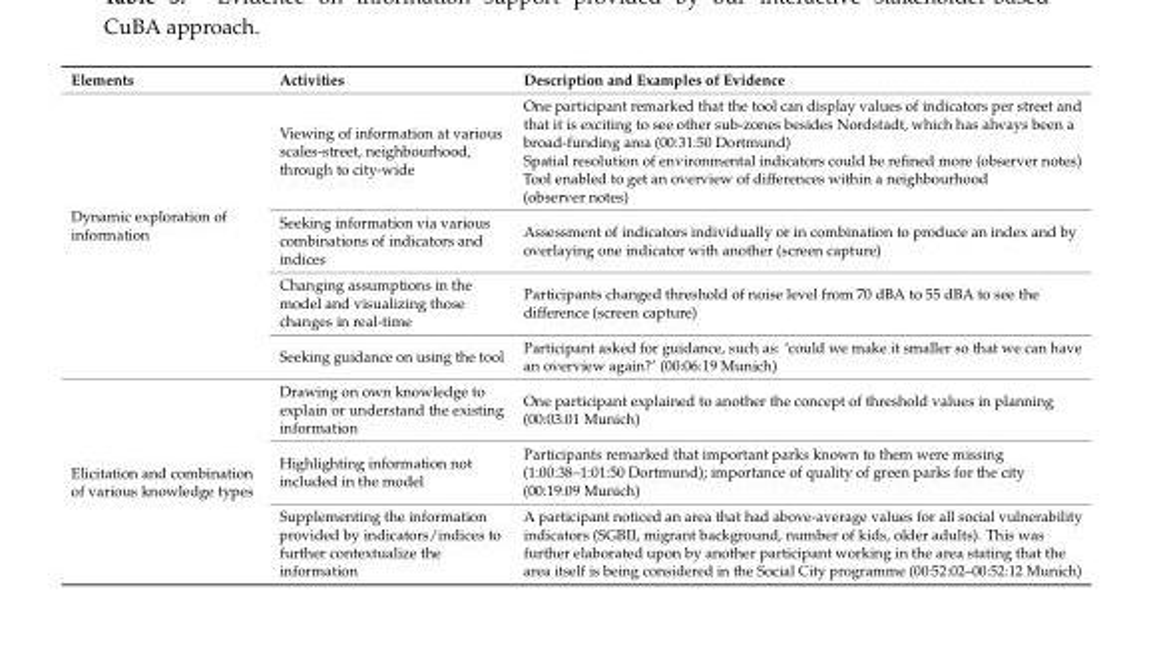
<table><thead><tr><td>Elements</td><td>Activities</td><td>Description and Examples of Evidence</td></tr></thead><tbody><tr><td rowspan="4">Dynamic exploration of information</td><td>Viewing of information at various scales-street, neighbourhood, through to city-wide</td><td>One participant remarked that the tool can display values of indicators per street and that it is exciting to see other sub-zones besides Nordstadt, which has always been a broad-funding area (00:31:50 Dortmund) Spatial resolution of environmental indicators could be refined more (observer notes) Tool enabled to get an overview of differences within a neighbourhood (observer notes)</td></tr><tr><td>Seeking information via various combinations of indicators and indices</td><td>Assessment of indicators individually or in combination to produce an index and by overlaying one indicator with another (screen capture)</td></tr><tr><td>Changing assumptions in the model and visualizing those changes in real-time</td><td>Participants changed threshold of noise level from 70 dBA to 55 dBA to see the difference (screen capture)</td></tr><tr><td>Seeking guidance on using the tool</td><td>Participant asked for guidance, such as: ‘could we make it smaller so that we can have an overview again?’ (00:06:19 Munich)</td></tr><tr><td rowspan="3">Elicitation and combination of various knowledge types</td><td>Drawing on own knowledge to explain or understand the existing information</td><td>One participant explained to another the concept of threshold values in planning (00:03:01 Munich)</td></tr><tr><td>Highlighting information not included in the model</td><td>Participants remarked that important parks known to them were missing (1:00:38–1:01:50 Dortmund); importance of quality of green parks for the city (00:19:09 Munich)</td></tr><tr><td>Supplementing the information provided by indicators/indices to further contextualize the information</td><td>A participant noticed an area that had above-average values for all social vulnerability indicators (SGBII, migrant background, number of kids, older adults). This was further elaborated upon by another participant working in the area stating that the area itself is being considered in the Social City programme (00:52:02–00:52:12 Munich)</td></tr></tbody></table>